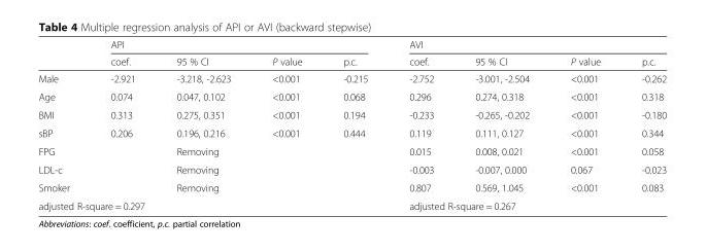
<table><thead><tr><td rowspan="2"></td><td colspan="4">API</td><td colspan="4">AVI</td></tr><tr><td>coef.</td><td>95 % CI</td><td>P value</td><td>p.c.</td><td>coef.</td><td>95 % CI</td><td>P value</td><td>p.c.</td></tr></thead><tbody><tr><td>Male</td><td>-2.921</td><td>-3.218, -2.623</td><td>&lt;0.001</td><td>-0.215</td><td>-2.752</td><td>-3.001, -2.504</td><td>&lt;0.001</td><td>-0.262</td></tr><tr><td>Age</td><td>0.074</td><td>0.047, 0.102</td><td>&lt;0.001</td><td>0.068</td><td>0.296</td><td>0.274, 0.318</td><td>&lt;0.001</td><td>0.318</td></tr><tr><td>BMI</td><td>0.313</td><td>0.275, 0.351</td><td>&lt;0.001</td><td>0.194</td><td>-0.233</td><td>-0.265, -0.202</td><td>&lt;0.001</td><td>-0.180</td></tr><tr><td>sBP</td><td>0.206</td><td>0.196, 0.216</td><td>&lt;0.001</td><td>0.444</td><td>0.119</td><td>0.111, 0.127</td><td>&lt;0.001</td><td>0.344</td></tr><tr><td>FPG</td><td></td><td>Removing</td><td></td><td></td><td>0.015</td><td>0.008, 0.021</td><td>&lt;0.001</td><td>0.058</td></tr><tr><td>LDL-c</td><td></td><td>Removing</td><td></td><td></td><td>-0.003</td><td>-0.007, 0.000</td><td>0.067</td><td>-0.023</td></tr><tr><td>Smoker</td><td></td><td>Removing</td><td></td><td></td><td>0.807</td><td>0.569, 1.045</td><td>&lt;0.001</td><td>0.083</td></tr><tr><td colspan="5">adjusted R-square = 0.297</td><td colspan="4">adjusted R-square = 0.267</td></tr></tbody></table>